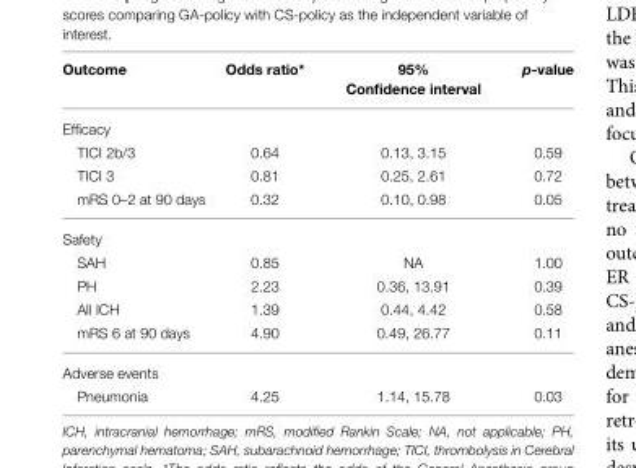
<table><thead><tr><td>Outcome</td><td>Odds ratio*</td><td>95% Confidence interval</td><td>p-value</td></tr></thead><tbody><tr><td colspan="4">Efficacy</td></tr><tr><td>TICI 2b/3</td><td>0.64</td><td>0.13, 3.15</td><td>0.59</td></tr><tr><td>TICI 3</td><td>0.81</td><td>0.25, 2.61</td><td>0.72</td></tr><tr><td>mRS 0–2 at 90 days</td><td>0.32</td><td>0.10, 0.98</td><td>0.05</td></tr><tr><td colspan="4">Safety</td></tr><tr><td>SAH</td><td>0.85</td><td>NA</td><td>1.00</td></tr><tr><td>PH</td><td>2.23</td><td>0.36, 13.91</td><td>0.39</td></tr><tr><td>All ICH</td><td>1.39</td><td>0.44, 4.42</td><td>0.58</td></tr><tr><td>mRS 6 at 90 days</td><td>4.90</td><td>0.49, 26.77</td><td>0.11</td></tr><tr><td colspan="4">Adverse events</td></tr><tr><td>Pneumonia</td><td>4.25</td><td>1.14, 15.78</td><td>0.03</td></tr></tbody></table>